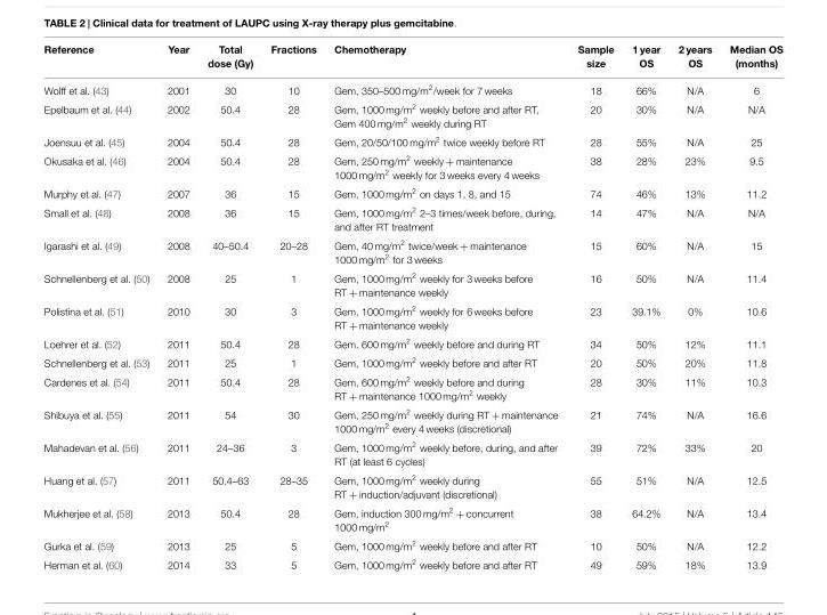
<table><thead><tr><td>Reference</td><td>Year</td><td>Total dose (Gy)</td><td>Fractions</td><td>Chemotherapy</td><td>Sample size</td><td>1 year OS</td><td>2 years OS</td><td>Median OS (months)</td></tr></thead><tbody><tr><td>Wolff et al. (43)</td><td>2001</td><td>30</td><td>10</td><td>Gem, 350–500 mg/m<sup>2</sup>/week for 7 weeks</td><td>18</td><td>66%</td><td>N/A</td><td>6</td></tr><tr><td>Epelbaum et al. (44)</td><td>2002</td><td>50.4</td><td>28</td><td>Gem, 1000 mg/m<sup>2</sup> weekly before and after RT, Gem 400 mg/m<sup>2</sup> weekly during RT</td><td>20</td><td>30%</td><td>N/A</td><td>N/A</td></tr><tr><td>Joensuu et al. (45)</td><td>2004</td><td>50.4</td><td>28</td><td>Gem, 20/50/100 mg/m<sup>2</sup> twice weekly before RT</td><td>28</td><td>55%</td><td>N/A</td><td>25</td></tr><tr><td>Okusaka et al. (46)</td><td>2004</td><td>50.4</td><td>28</td><td>Gem, 250 mg/m<sup>2</sup> weekly + maintenance 1000 mg/m<sup>2</sup> weekly for 3 weeks every 4 weeks</td><td>38</td><td>28%</td><td>23%</td><td>9.5</td></tr><tr><td>Murphy et al. (47)</td><td>2007</td><td>36</td><td>15</td><td>Gem, 1000 mg/m<sup>2</sup> on days 1, 8, and 15</td><td>74</td><td>46%</td><td>13%</td><td>11.2</td></tr><tr><td>Small et al. (48)</td><td>2008</td><td>36</td><td>15</td><td>Gem, 1000 mg/m<sup>2</sup> 2–3 times/week before, during, and after RT treatment</td><td>14</td><td>47%</td><td>N/A</td><td>N/A</td></tr><tr><td>Igarashi et al. (49)</td><td>2008</td><td>40–50.4</td><td>20–28</td><td>Gem, 40 mg/m<sup>2</sup> twice/week + maintenance 1000 mg/m<sup>2</sup> for 3 weeks</td><td>15</td><td>60%</td><td>N/A</td><td>15</td></tr><tr><td>Schnellenberg et al. (50)</td><td>2008</td><td>25</td><td>1</td><td>Gem, 1000 mg/m<sup>2</sup> weekly for 3 weeks before RT + maintenance weekly</td><td>16</td><td>50%</td><td>N/A</td><td>11.4</td></tr><tr><td>Polistina et al. (51)</td><td>2010</td><td>30</td><td>3</td><td>Gem, 1000 mg/m<sup>2</sup> weekly for 6 weeks before RT + maintenance weekly</td><td>23</td><td>39.1%</td><td>0%</td><td>10.6</td></tr><tr><td>Loehrer et al. (52)</td><td>2011</td><td>50.4</td><td>28</td><td>Gem, 600 mg/m<sup>2</sup> weekly before and during RT</td><td>34</td><td>50%</td><td>12%</td><td>11.1</td></tr><tr><td>Schnellenberg et al. (53)</td><td>2011</td><td>25</td><td>1</td><td>Gem, 1000 mg/m<sup>2</sup> weekly before and after RT</td><td>20</td><td>50%</td><td>20%</td><td>11.8</td></tr><tr><td>Cardenes et al. (54)</td><td>2011</td><td>50.4</td><td>28</td><td>Gem, 600 mg/m<sup>2</sup> weekly before and during RT + maintenance 1000 mg/m<sup>2</sup> weekly</td><td>28</td><td>30%</td><td>11%</td><td>10.3</td></tr><tr><td>Shibuya et al. (55)</td><td>2011</td><td>54</td><td>30</td><td>Gem, 250 mg/m<sup>2</sup> weekly during RT + maintenance 1000 mg/m<sup>2</sup> every 4 weeks (discretional)</td><td>21</td><td>74%</td><td>N/A</td><td>16.6</td></tr><tr><td>Mahadevan et al. (56)</td><td>2011</td><td>24–36</td><td>3</td><td>Gem, 1000 mg/m<sup>2</sup> weekly before, during, and after RT (at least 6 cycles)</td><td>39</td><td>72%</td><td>33%</td><td>20</td></tr><tr><td>Huang et al. (57)</td><td>2011</td><td>50.4–63</td><td>28–35</td><td>Gem, 1000 mg/m<sup>2</sup> weekly during RT + induction/adjuvant (discretional)</td><td>55</td><td>51%</td><td>N/A</td><td>12.5</td></tr><tr><td>Mukherjee et al. (58)</td><td>2013</td><td>50.4</td><td>28</td><td>Gem, induction 300 mg/m<sup>2</sup> + concurrent 1000 mg/m<sup>2</sup></td><td>38</td><td>64.2%</td><td>N/A</td><td>13.4</td></tr><tr><td>Gurka et al. (59)</td><td>2013</td><td>25</td><td>5</td><td>Gem, 1000 mg/m<sup>2</sup> weekly before and after RT</td><td>10</td><td>50%</td><td>N/A</td><td>12.2</td></tr><tr><td>Herman et al. (60)</td><td>2014</td><td>33</td><td>5</td><td>Gem, 1000 mg/m<sup>2</sup> weekly before and after RT</td><td>49</td><td>59%</td><td>18%</td><td>13.9</td></tr></tbody></table>